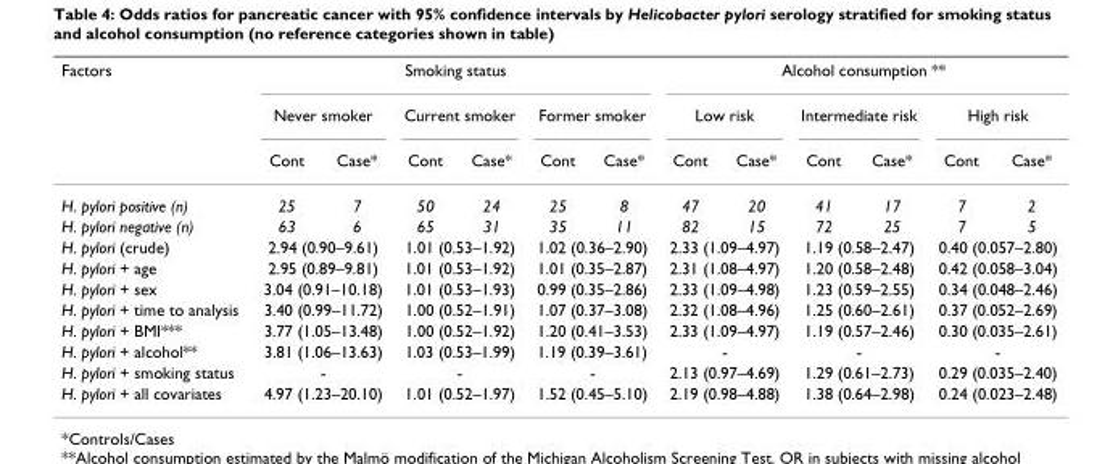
<table><thead><tr><td rowspan="3">Factors</td><td colspan="6">Smoking status</td><td colspan="6">Alcohol consumption **</td></tr><tr><td colspan="2">Never smoker</td><td colspan="2">Current smoker</td><td colspan="2">Former smoker</td><td colspan="2">Low risk</td><td colspan="2">Intermediate risk</td><td colspan="2">High risk</td></tr><tr><td>Cont</td><td>Case*</td><td>Cont</td><td>Case*</td><td>Cont</td><td>Case*</td><td>Cont</td><td>Case*</td><td>Cont</td><td>Case*</td><td>Cont</td><td>Case*</td></tr></thead><tbody><tr><td>H. pylori positive (n)</td><td>25</td><td>7</td><td>50</td><td>24</td><td>25</td><td>8</td><td>47</td><td>20</td><td>41</td><td>17</td><td>7</td><td>2</td></tr><tr><td>H. pylori negative (n)</td><td>63</td><td>6</td><td>65</td><td>31</td><td>35</td><td>11</td><td>82</td><td>15</td><td>72</td><td>25</td><td>7</td><td>5</td></tr><tr><td>H. pylori (crude)</td><td colspan="2">2.94 (0.90–9.61)</td><td colspan="2">1.01 (0.53–1.92)</td><td colspan="2">1.02 (0.36–2.90)</td><td colspan="2">2.33 (1.09–4.97)</td><td colspan="2">1.19 (0.58–2.47)</td><td colspan="2">0.40 (0.057–2.80)</td></tr><tr><td>H. pylori + age</td><td colspan="2">2.95 (0.89–9.81)</td><td colspan="2">1.01 (0.53–1.92)</td><td colspan="2">1.01 (0.35–2.87)</td><td colspan="2">2.31 (1.08–4.97)</td><td colspan="2">1.20 (0.58–2.48)</td><td colspan="2">0.42 (0.058–3.04)</td></tr><tr><td>H. pylori + sex</td><td colspan="2">3.04 (0.91–10.18)</td><td colspan="2">1.01 (0.53–1.93)</td><td colspan="2">0.99 (0.35–2.86)</td><td colspan="2">2.33 (1.09–4.98)</td><td colspan="2">1.23 (0.59–2.55)</td><td colspan="2">0.34 (0.048–2.46)</td></tr><tr><td>H. pylori + time to analysis</td><td colspan="2">3.40 (0.99–11.72)</td><td colspan="2">1.00 (0.52–1.91)</td><td colspan="2">1.07 (0.37–3.08)</td><td colspan="2">2.32 (1.08–4.96)</td><td colspan="2">1.25 (0.60–2.61)</td><td colspan="2">0.37 (0.052–2.69)</td></tr><tr><td>H. pylori + BMI***</td><td colspan="2">3.77 (1.05–13.48)</td><td colspan="2">1.00 (0.52–1.92)</td><td colspan="2">1.20 (0.41–3.53)</td><td colspan="2">2.33 (1.09–4.97)</td><td colspan="2">1.19 (0.57–2.46)</td><td colspan="2">0.30 (0.035–2.61)</td></tr><tr><td>H. pylori + alcohol**</td><td colspan="2">3.81 (1.06–13.63)</td><td colspan="2">1.03 (0.53–1.99)</td><td colspan="2">1.19 (0.39–3.61)</td><td colspan="2">-</td><td colspan="2">-</td><td colspan="2">-</td></tr><tr><td>H. pylori + smoking status</td><td colspan="2">-</td><td colspan="2">-</td><td colspan="2">-</td><td colspan="2">2.13 (0.97–4.69)</td><td colspan="2">1.29 (0.61–2.73)</td><td colspan="2">0.29 (0.035–2.40)</td></tr><tr><td>H. pylori + all covariates</td><td colspan="2">4.97 (1.23–20.10)</td><td colspan="2">1.01 (0.52–1.97)</td><td colspan="2">1.52 (0.45–5.10)</td><td colspan="2">2.19 (0.98–4.88)</td><td colspan="2">1.38 (0.64–2.98)</td><td colspan="2">0.24 (0.023–2.48)</td></tr></tbody></table>